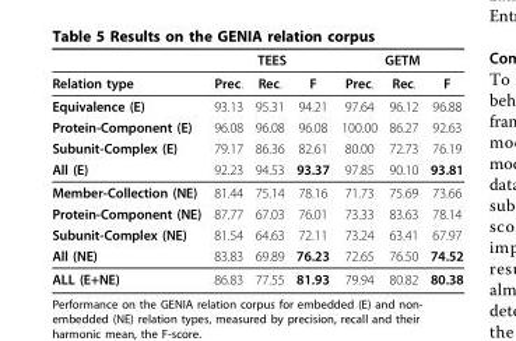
<table><thead><tr><td rowspan="2">Relation type</td><td colspan="3">TEES</td><td colspan="3">GETM</td></tr><tr><td>Prec.</td><td>Rec.</td><td>F</td><td>Prec.</td><td>Rec.</td><td>F</td></tr></thead><tbody><tr><td>Equivalence (E)</td><td>93.13</td><td>95.31</td><td>94.21</td><td>97.64</td><td>96.12</td><td>96.88</td></tr><tr><td>Protein-Component (E)</td><td>96.08</td><td>96.08</td><td>96.08</td><td>100.00</td><td>86.27</td><td>92.63</td></tr><tr><td>Subunit-Complex (E)</td><td>79.17</td><td>86.36</td><td>82.61</td><td>80.00</td><td>72.73</td><td>76.19</td></tr><tr><td>All (E)</td><td>92.23</td><td>94.53</td><td>93.37</td><td>97.85</td><td>90.10</td><td>93.81</td></tr><tr><td>Member-Collection (NE)</td><td>81.44</td><td>75.14</td><td>78.16</td><td>71.73</td><td>75.69</td><td>73.66</td></tr><tr><td>Protein-Component (NE)</td><td>87.77</td><td>67.03</td><td>76.01</td><td>73.33</td><td>83.63</td><td>78.14</td></tr><tr><td>Subunit-Complex (NE)</td><td>81.54</td><td>64.63</td><td>72.11</td><td>73.24</td><td>63.41</td><td>67.97</td></tr><tr><td>All (NE)</td><td>83.83</td><td>69.89</td><td>76.23</td><td>72.65</td><td>76.50</td><td>74.52</td></tr><tr><td>ALL (E+NE)</td><td>86.83</td><td>77.55</td><td>81.93</td><td>79.94</td><td>80.82</td><td>80.38</td></tr></tbody></table>